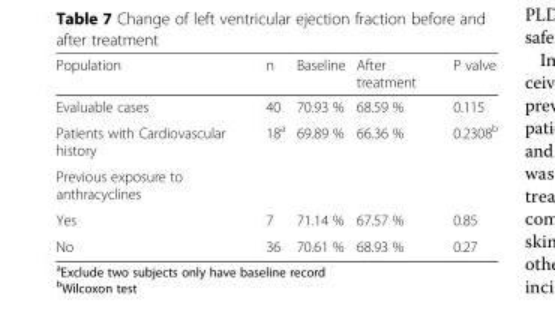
<table><thead><tr><td>Population</td><td>n</td><td>Baseline</td><td>After treatment</td><td>P valve</td></tr></thead><tbody><tr><td>Evaluable cases</td><td>40</td><td>70.93 %</td><td>68.59 %</td><td>0.115</td></tr><tr><td>Patients with Cardiovascular history</td><td>18<sup>a</sup></td><td>69.89 %</td><td>66.36 %</td><td>0.2308<sup>b</sup></td></tr><tr><td colspan="5">Previous exposure to anthracyclines</td></tr><tr><td>Yes</td><td>7</td><td>71.14 %</td><td>67.57 %</td><td>0.85</td></tr><tr><td>No</td><td>36</td><td>70.61 %</td><td>68.93 %</td><td>0.27</td></tr></tbody></table>